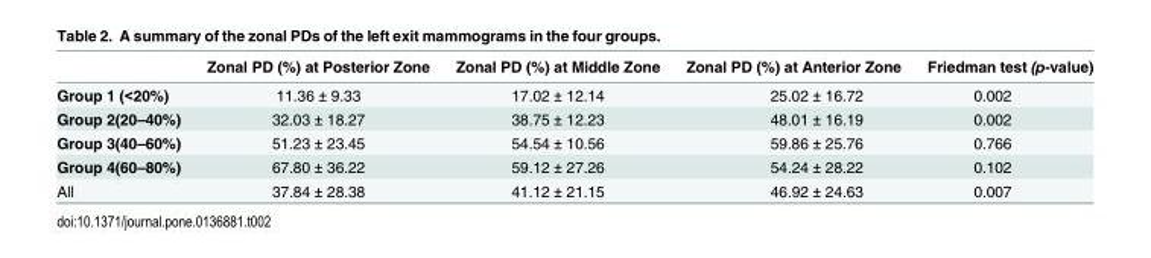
<table><thead><tr><td></td><td>Zonal PD (%) at Posterior Zone</td><td>Zonal PD (%) at Middle Zone</td><td>Zonal PD (%) at Anterior Zone</td><td>Friedman test (p-value)</td></tr></thead><tbody><tr><td>Group 1 (&lt;20%)</td><td>11.36 ± 9.33</td><td>17.02 ± 12.14</td><td>25.02 ± 16.72</td><td>0.002</td></tr><tr><td>Group 2(20–40%)</td><td>32.03 ± 18.27</td><td>38.75 ± 12.23</td><td>48.01 ± 16.19</td><td>0.002</td></tr><tr><td>Group 3(40–60%)</td><td>51.23 ± 23.45</td><td>54.54 ± 10.56</td><td>59.86 ± 25.76</td><td>0.766</td></tr><tr><td>Group 4(60–80%)</td><td>67.80 ± 36.22</td><td>59.12 ± 27.26</td><td>54.24 ± 28.22</td><td>0.102</td></tr><tr><td>All</td><td>37.84 ± 28.38</td><td>41.12 ± 21.15</td><td>46.92 ± 24.63</td><td>0.007</td></tr></tbody></table>